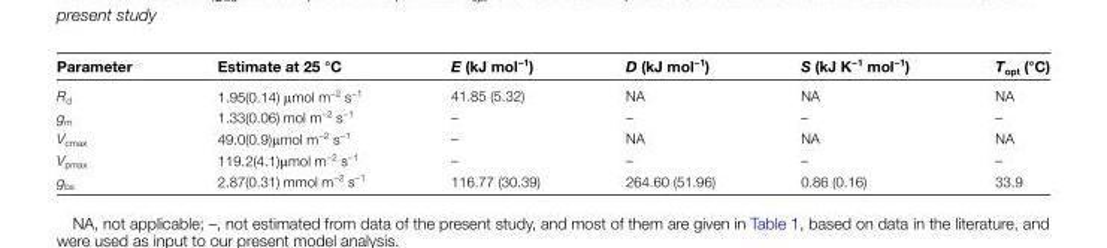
<table><thead><tr><td>Parameter</td><td>Estimate at 25 °C</td><td>E (kJ mol<sup>−1</sup>)</td><td>D (kJ mol<sup>−1</sup>)</td><td>S (kJ K<sup>−1</sup> mol<sup>−1</sup>)</td><td>T<sub>opt</sub> (°C)</td></tr></thead><tbody><tr><td>R<sub>d</sub></td><td>1.95(0.14) μmol m<sup>−2</sup> s<sup>−1</sup></td><td>41.85 (5.32)</td><td>NA</td><td>NA</td><td>NA</td></tr><tr><td>g<sub>m</sub></td><td>1.33(0.06) mol m<sup>−2</sup> s<sup>−1</sup></td><td>–</td><td>–</td><td>–</td><td>–</td></tr><tr><td>V<sub>cmax</sub></td><td>49.0(0.9)μmol m<sup>−2</sup> s<sup>−1</sup></td><td>–</td><td>NA</td><td>NA</td><td>NA</td></tr><tr><td>V<sub>pmax</sub></td><td>119.2(4.1)μmol m<sup>−2</sup> s<sup>−1</sup></td><td>–</td><td>–</td><td>–</td><td>–</td></tr><tr><td>g<sub>bs</sub></td><td>2.87(0.31) mmol m<sup>−2</sup> s<sup>−1</sup></td><td>116.77 (30.39)</td><td>264.60 (51.96)</td><td>0.86 (0.16)</td><td>33.9</td></tr></tbody></table>